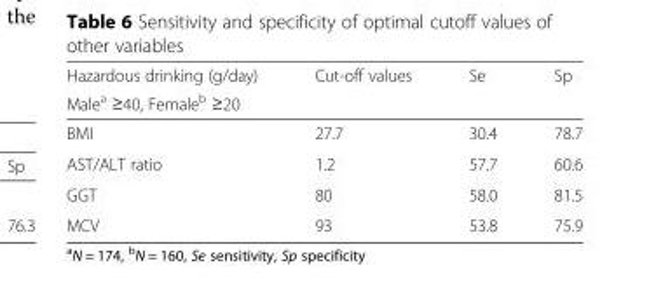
<table><thead><tr><td rowspan="2">Hazardous drinking (g/day) Male<sup>a</sup> ≥40, Female<sup>b</sup> ≥20</td><td rowspan="2">Cut-off values</td><td rowspan="2">Se</td><td rowspan="2">Sp</td></tr><tr></tr></thead><tbody><tr><td>BMI</td><td>27.7</td><td>30.4</td><td>78.7</td></tr><tr><td>AST/ALT ratio</td><td>1.2</td><td>57.7</td><td>60.6</td></tr><tr><td>GGT</td><td>80</td><td>58.0</td><td>81.5</td></tr><tr><td>MCV</td><td>93</td><td>53.8</td><td>75.9</td></tr></tbody></table>